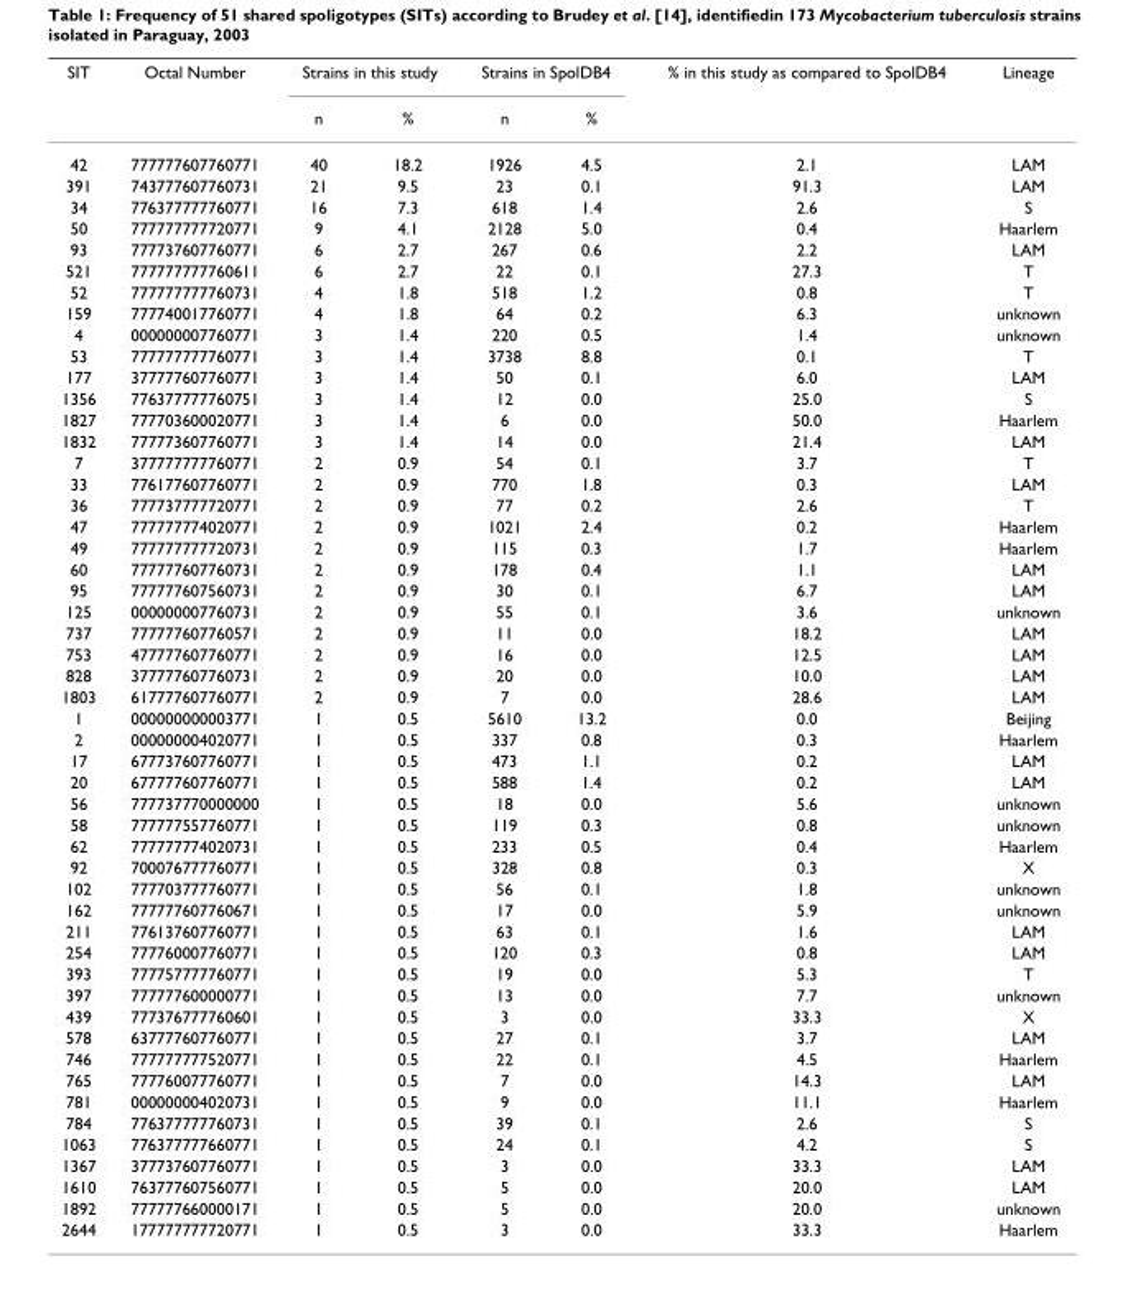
<table><thead><tr><td rowspan="2">SIT</td><td rowspan="2">Octal Number</td><td colspan="2">Strains in this study</td><td colspan="2">Strains in SpolDB4</td><td rowspan="2">% in this study as compared to SpolDB4</td><td rowspan="2">Lineage</td></tr><tr><td>n</td><td>%</td><td>n</td><td>%</td></tr></thead><tbody><tr><td>42</td><td>777777607760771</td><td>40</td><td>18.2</td><td>1926</td><td>4.5</td><td>2.1</td><td>LAM</td></tr><tr><td>391</td><td>743777607760731</td><td>21</td><td>9.5</td><td>23</td><td>0.1</td><td>91.3</td><td>LAM</td></tr><tr><td>34</td><td>776377777760771</td><td>16</td><td>7.3</td><td>618</td><td>1.4</td><td>2.6</td><td>S</td></tr><tr><td>50</td><td>777777777720771</td><td>9</td><td>4.1</td><td>2128</td><td>5.0</td><td>0.4</td><td>Haarlem</td></tr><tr><td>93</td><td>777737607760771</td><td>6</td><td>2.7</td><td>267</td><td>0.6</td><td>2.2</td><td>LAM</td></tr><tr><td>521</td><td>777777777760611</td><td>6</td><td>2.7</td><td>22</td><td>0.1</td><td>27.3</td><td>T</td></tr><tr><td>52</td><td>777777777760731</td><td>4</td><td>1.8</td><td>518</td><td>1.2</td><td>0.8</td><td>T</td></tr><tr><td>159</td><td>777740017760771</td><td>4</td><td>1.8</td><td>64</td><td>0.2</td><td>6.3</td><td>unknown</td></tr><tr><td>4</td><td>000000007760771</td><td>3</td><td>1.4</td><td>220</td><td>0.5</td><td>1.4</td><td>unknown</td></tr><tr><td>53</td><td>777777777760771</td><td>3</td><td>1.4</td><td>3738</td><td>8.8</td><td>0.1</td><td>T</td></tr><tr><td>177</td><td>377777607760771</td><td>3</td><td>1.4</td><td>50</td><td>0.1</td><td>6.0</td><td>LAM</td></tr><tr><td>1356</td><td>776377777760751</td><td>3</td><td>1.4</td><td>12</td><td>0.0</td><td>25.0</td><td>S</td></tr><tr><td>1827</td><td>777703600020771</td><td>3</td><td>1.4</td><td>6</td><td>0.0</td><td>50.0</td><td>Haarlem</td></tr><tr><td>1832</td><td>777773607760771</td><td>3</td><td>1.4</td><td>14</td><td>0.0</td><td>21.4</td><td>LAM</td></tr><tr><td>7</td><td>377777777760771</td><td>2</td><td>0.9</td><td>54</td><td>0.1</td><td>3.7</td><td>T</td></tr><tr><td>33</td><td>776177607760771</td><td>2</td><td>0.9</td><td>770</td><td>1.8</td><td>0.3</td><td>LAM</td></tr><tr><td>36</td><td>777737777720771</td><td>2</td><td>0.9</td><td>77</td><td>0.2</td><td>2.6</td><td>T</td></tr><tr><td>47</td><td>777777774020771</td><td>2</td><td>0.9</td><td>1021</td><td>2.4</td><td>0.2</td><td>Haarlem</td></tr><tr><td>49</td><td>777777777720731</td><td>2</td><td>0.9</td><td>115</td><td>0.3</td><td>1.7</td><td>Haarlem</td></tr><tr><td>60</td><td>777777607760731</td><td>2</td><td>0.9</td><td>178</td><td>0.4</td><td>1.1</td><td>LAM</td></tr><tr><td>95</td><td>777777607560731</td><td>2</td><td>0.9</td><td>30</td><td>0.1</td><td>6.7</td><td>LAM</td></tr><tr><td>125</td><td>000000007760731</td><td>2</td><td>0.9</td><td>55</td><td>0.1</td><td>3.6</td><td>unknown</td></tr><tr><td>737</td><td>777777607760571</td><td>2</td><td>0.9</td><td>11</td><td>0.0</td><td>18.2</td><td>LAM</td></tr><tr><td>753</td><td>477777607760771</td><td>2</td><td>0.9</td><td>16</td><td>0.0</td><td>12.5</td><td>LAM</td></tr><tr><td>828</td><td>377777607760731</td><td>2</td><td>0.9</td><td>20</td><td>0.0</td><td>10.0</td><td>LAM</td></tr><tr><td>1803</td><td>617777607760771</td><td>2</td><td>0.9</td><td>7</td><td>0.0</td><td>28.6</td><td>LAM</td></tr><tr><td>1</td><td>000000000003771</td><td>1</td><td>0.5</td><td>5610</td><td>13.2</td><td>0.0</td><td>Beijing</td></tr><tr><td>2</td><td>000000004020771</td><td>1</td><td>0.5</td><td>337</td><td>0.8</td><td>0.3</td><td>Haarlem</td></tr><tr><td>17</td><td>677737607760771</td><td>1</td><td>0.5</td><td>473</td><td>1.1</td><td>0.2</td><td>LAM</td></tr><tr><td>20</td><td>677777607760771</td><td>1</td><td>0.5</td><td>588</td><td>1.4</td><td>0.2</td><td>LAM</td></tr><tr><td>56</td><td>777737770000000</td><td>1</td><td>0.5</td><td>18</td><td>0.0</td><td>5.6</td><td>unknown</td></tr><tr><td>58</td><td>777777557760771</td><td>1</td><td>0.5</td><td>119</td><td>0.3</td><td>0.8</td><td>unknown</td></tr><tr><td>62</td><td>777777774020731</td><td>1</td><td>0.5</td><td>233</td><td>0.5</td><td>0.4</td><td>Haarlem</td></tr><tr><td>92</td><td>700076777760771</td><td>1</td><td>0.5</td><td>328</td><td>0.8</td><td>0.3</td><td>X</td></tr><tr><td>102</td><td>777703777760771</td><td>1</td><td>0.5</td><td>56</td><td>0.1</td><td>1.8</td><td>unknown</td></tr><tr><td>162</td><td>777777607760671</td><td>1</td><td>0.5</td><td>17</td><td>0.0</td><td>5.9</td><td>unknown</td></tr><tr><td>211</td><td>776137607760771</td><td>1</td><td>0.5</td><td>63</td><td>0.1</td><td>1.6</td><td>LAM</td></tr><tr><td>254</td><td>777760007760771</td><td>1</td><td>0.5</td><td>120</td><td>0.3</td><td>0.8</td><td>LAM</td></tr><tr><td>393</td><td>777757777760771</td><td>1</td><td>0.5</td><td>19</td><td>0.0</td><td>5.3</td><td>T</td></tr><tr><td>397</td><td>777777600000771</td><td>1</td><td>0.5</td><td>13</td><td>0.0</td><td>7.7</td><td>unknown</td></tr><tr><td>439</td><td>777376777760601</td><td>1</td><td>0.5</td><td>3</td><td>0.0</td><td>33.3</td><td>X</td></tr><tr><td>578</td><td>637777607760771</td><td>1</td><td>0.5</td><td>27</td><td>0.1</td><td>3.7</td><td>LAM</td></tr><tr><td>746</td><td>777777777520771</td><td>1</td><td>0.5</td><td>22</td><td>0.1</td><td>4.5</td><td>Haarlem</td></tr><tr><td>765</td><td>777760077760771</td><td>1</td><td>0.5</td><td>7</td><td>0.0</td><td>14.3</td><td>LAM</td></tr><tr><td>781</td><td>000000004020731</td><td>1</td><td>0.5</td><td>9</td><td>0.0</td><td>11.1</td><td>Haarlem</td></tr><tr><td>784</td><td>776377777760731</td><td>1</td><td>0.5</td><td>39</td><td>0.1</td><td>2.6</td><td>S</td></tr><tr><td>1063</td><td>776377777660771</td><td>1</td><td>0.5</td><td>24</td><td>0.1</td><td>4.2</td><td>S</td></tr><tr><td>1367</td><td>377737607760771</td><td>1</td><td>0.5</td><td>3</td><td>0.0</td><td>33.3</td><td>LAM</td></tr><tr><td>1610</td><td>763777607560771</td><td>1</td><td>0.5</td><td>5</td><td>0.0</td><td>20.0</td><td>LAM</td></tr><tr><td>1892</td><td>777777660000171</td><td>1</td><td>0.5</td><td>5</td><td>0.0</td><td>20.0</td><td>unknown</td></tr><tr><td>2644</td><td>177777777720771</td><td>1</td><td>0.5</td><td>3</td><td>0.0</td><td>33.3</td><td>Haarlem</td></tr></tbody></table>